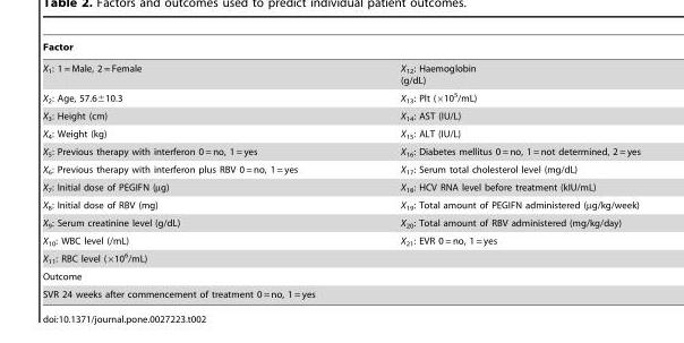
<table><thead><tr><td>Factor</td><td></td></tr></thead><tbody><tr><td>X<sub>1</sub>: 1 = Male, 2 = Female</td><td>X<sub>12</sub>: Haemoglobin (g/dL)</td></tr><tr><td>X<sub>2</sub>: Age, 57.6±10.3</td><td>X<sub>13</sub>: Plt (×10<sup>5</sup>/mL)</td></tr><tr><td>X<sub>3</sub>: Height (cm)</td><td>X<sub>14</sub>: AST (IU/L)</td></tr><tr><td>X<sub>4</sub>: Weight (kg)</td><td>X<sub>15</sub>: ALT (IU/L)</td></tr><tr><td>X<sub>5</sub>: Previous therapy with interferon 0 = no, 1 = yes</td><td>X<sub>16</sub>: Diabetes mellitus 0 = no, 1 = not determined, 2 = yes</td></tr><tr><td>X<sub>6</sub>: Previous therapy with interferon plus RBV 0 = no, 1 = yes</td><td>X<sub>17</sub>: Serum total cholesterol level (mg/dL)</td></tr><tr><td>X<sub>7</sub>: Initial dose of PEGIFN (µg)</td><td>X<sub>18</sub>: HCV RNA level before treatment (kIU/mL)</td></tr><tr><td>X<sub>8</sub>: Initial dose of RBV (mg)</td><td>X<sub>19</sub>: Total amount of PEGIFN administered (µg/kg/week)</td></tr><tr><td>X<sub>9</sub>: Serum creatinine level (g/dL)</td><td>X<sub>20</sub>: Total amount of RBV administered (mg/kg/day)</td></tr><tr><td>X<sub>10</sub>: WBC level (/mL)</td><td>X<sub>21</sub>: EVR 0 = no, 1 = yes</td></tr><tr><td colspan="2">X<sub>11</sub>: RBC level (×10<sup>6</sup>/mL)</td></tr><tr><td colspan="2">Outcome</td></tr><tr><td colspan="2">SVR 24 weeks after commencement of treatment 0 = no, 1 = yes</td></tr></tbody></table>